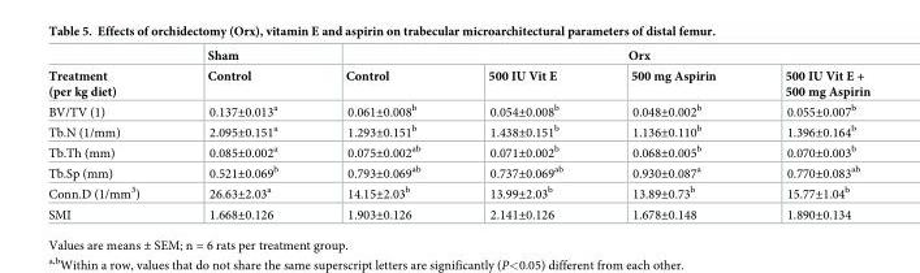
<table><thead><tr><td rowspan="2">Treatment (per kg diet)</td><td rowspan="2">Sham Control</td><td colspan="4">Orx</td></tr><tr><td>Control</td><td>500 IU Vit E</td><td>500 mg Aspirin</td><td>500 IU Vit E + 500 mg Aspirin</td></tr></thead><tbody><tr><td>BV/TV (1)</td><td>0.137±0.013<sup>a</sup></td><td>0.061±0.008<sup>b</sup></td><td>0.054±0.008<sup>b</sup></td><td>0.048±0.002<sup>b</sup></td><td>0.055±0.007<sup>b</sup></td></tr><tr><td>Tb.N (1/mm)</td><td>2.095±0.151<sup>a</sup></td><td>1.293±0.151<sup>b</sup></td><td>1.438±0.151<sup>b</sup></td><td>1.136±0.110<sup>b</sup></td><td>1.396±0.164<sup>b</sup></td></tr><tr><td>Tb.Th (mm)</td><td>0.085±0.002<sup>a</sup></td><td>0.075±0.002<sup>ab</sup></td><td>0.071±0.002<sup>b</sup></td><td>0.068±0.005<sup>b</sup></td><td>0.070±0.003<sup>b</sup></td></tr><tr><td>Tb.Sp (mm)</td><td>0.521±0.069<sup>b</sup></td><td>0.793±0.069<sup>ab</sup></td><td>0.737±0.069<sup>ab</sup></td><td>0.930±0.087<sup>a</sup></td><td>0.770±0.083<sup>ab</sup></td></tr><tr><td>Conn.D (1/mm<sup>3</sup>)</td><td>26.63±2.03<sup>a</sup></td><td>14.15±2.03<sup>b</sup></td><td>13.99±2.03<sup>b</sup></td><td>13.89±0.73<sup>b</sup></td><td>15.77±1.04<sup>b</sup></td></tr><tr><td>SMI</td><td>1.668±0.126</td><td>1.903±0.126</td><td>2.141±0.126</td><td>1.678±0.148</td><td>1.890±0.134</td></tr></tbody></table>